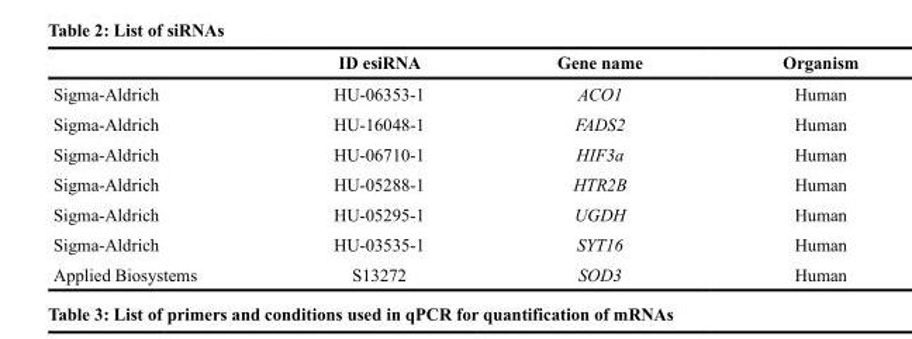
<table><thead><tr><td></td><td>ID esiRNA</td><td>Gene name</td><td>Organism</td></tr></thead><tbody><tr><td>Sigma-Aldrich</td><td>HU-06353-1</td><td>ACO1</td><td>Human</td></tr><tr><td>Sigma-Aldrich</td><td>HU-16048-1</td><td>FADS2</td><td>Human</td></tr><tr><td>Sigma-Aldrich</td><td>HU-06710-1</td><td>HIF3a</td><td>Human</td></tr><tr><td>Sigma-Aldrich</td><td>HU-05288-1</td><td>HTR2B</td><td>Human</td></tr><tr><td>Sigma-Aldrich</td><td>HU-05295-1</td><td>UGDH</td><td>Human</td></tr><tr><td>Sigma-Aldrich</td><td>HU-03535-1</td><td>SYT16</td><td>Human</td></tr><tr><td>Applied Biosystems</td><td>S13272</td><td>SOD3</td><td>Human</td></tr></tbody></table>